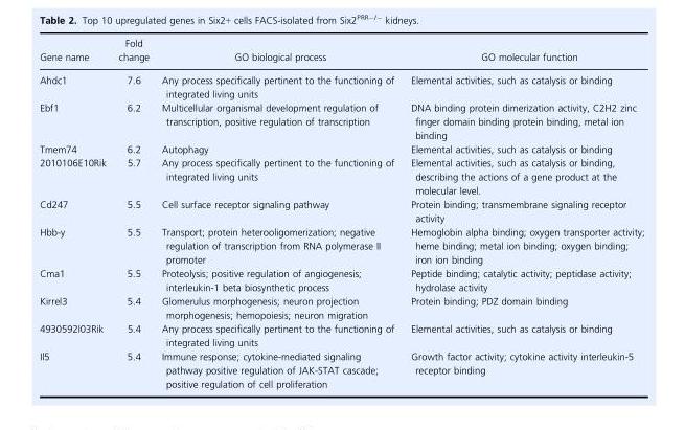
<table><thead><tr><td>Gene name</td><td>Fold change</td><td>GO biological process</td><td>GO molecular function</td></tr></thead><tbody><tr><td>Ahdc1</td><td>7.6</td><td>Any process specifically pertinent to the functioning of integrated living units</td><td>Elemental activities, such as catalysis or binding</td></tr><tr><td>Ebf1</td><td>6.2</td><td>Multicellular organismal development regulation of transcription, positive regulation of transcription</td><td>DNA binding protein dimerization activity, C2H2 zinc finger domain binding protein binding, metal ion binding</td></tr><tr><td>Tmem74</td><td>6.2</td><td>Autophagy</td><td>Elemental activities, such as catalysis or binding</td></tr><tr><td>2010106E10Rik</td><td>5.7</td><td>Any process specifically pertinent to the functioning of integrated living units</td><td>Elemental activities, such as catalysis or binding, describing the actions of a gene product at the molecular level.</td></tr><tr><td>Cd247</td><td>5.5</td><td>Cell surface receptor signaling pathway</td><td>Protein binding; transmembrane signaling receptor activity</td></tr><tr><td>Hbb-y</td><td>5.5</td><td>Transport; protein heterooligomerization; negative regulation of transcription from RNA polymerase II promoter</td><td>Hemoglobin alpha binding; oxygen transporter activity; heme binding; metal ion binding; oxygen binding; iron ion binding</td></tr><tr><td>Cma1</td><td>5.5</td><td>Proteolysis; positive regulation of angiogenesis; interleukin-1 beta biosynthetic process</td><td>Peptide binding; catalytic activity; peptidase activity; hydrolase activity</td></tr><tr><td>Kirrel3</td><td>5.4</td><td>Glomerulus morphogenesis; neuron projection morphogenesis; hemopoiesis; neuron migration</td><td>Protein binding; PDZ domain binding</td></tr><tr><td>4930592I03Rik</td><td>5.4</td><td>Any process specifically pertinent to the functioning of integrated living units</td><td>Elemental activities, such as catalysis or binding</td></tr><tr><td>Il5</td><td>5.4</td><td>Immune response; cytokine-mediated signaling pathway positive regulation of JAK-STAT cascade; positive regulation of cell proliferation</td><td>Growth factor activity; cytokine activity interleukin-5 receptor binding</td></tr></tbody></table>